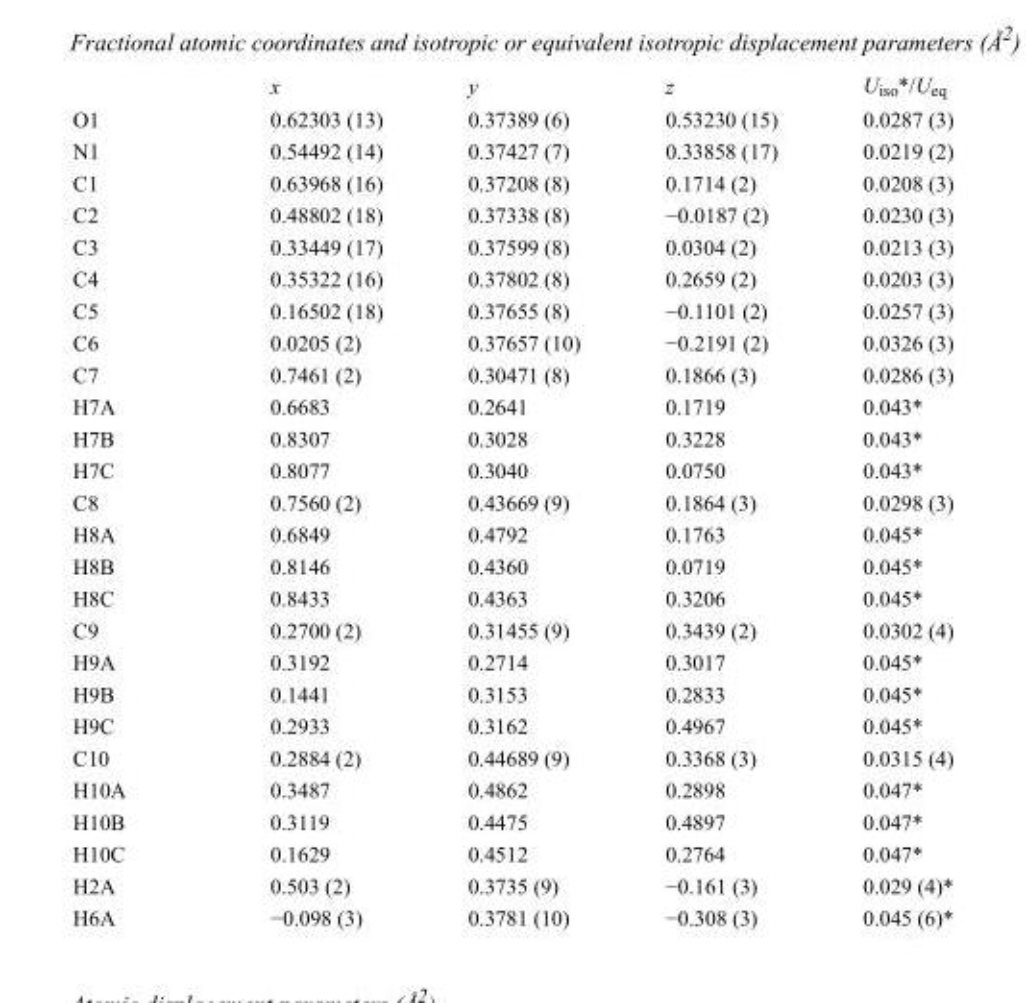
<table><thead><tr><td></td><td>x</td><td>y</td><td>z</td><td>U<sub>iso</sub>*/U<sub>eq</sub></td></tr></thead><tbody><tr><td>O1</td><td>0.62303 (13)</td><td>0.37389 (6)</td><td>0.53230 (15)</td><td>0.0287 (3)</td></tr><tr><td>N1</td><td>0.54492 (14)</td><td>0.37427 (7)</td><td>0.33858 (17)</td><td>0.0219 (2)</td></tr><tr><td>C1</td><td>0.63968 (16)</td><td>0.37208 (8)</td><td>0.1714 (2)</td><td>0.0208 (3)</td></tr><tr><td>C2</td><td>0.48802 (18)</td><td>0.37338 (8)</td><td>−0.0187 (2)</td><td>0.0230 (3)</td></tr><tr><td>C3</td><td>0.33449 (17)</td><td>0.37599 (8)</td><td>0.0304 (2)</td><td>0.0213 (3)</td></tr><tr><td>C4</td><td>0.35322 (16)</td><td>0.37802 (8)</td><td>0.2659 (2)</td><td>0.0203 (3)</td></tr><tr><td>C5</td><td>0.16502 (18)</td><td>0.37655 (8)</td><td>−0.1101 (2)</td><td>0.0257 (3)</td></tr><tr><td>C6</td><td>0.0205 (2)</td><td>0.37657 (10)</td><td>−0.2191 (2)</td><td>0.0326 (3)</td></tr><tr><td>C7</td><td>0.7461 (2)</td><td>0.30471 (8)</td><td>0.1866 (3)</td><td>0.0286 (3)</td></tr><tr><td>H7A</td><td>0.6683</td><td>0.2641</td><td>0.1719</td><td>0.043*</td></tr><tr><td>H7B</td><td>0.8307</td><td>0.3028</td><td>0.3228</td><td>0.043*</td></tr><tr><td>H7C</td><td>0.8077</td><td>0.3040</td><td>0.0750</td><td>0.043*</td></tr><tr><td>C8</td><td>0.7560 (2)</td><td>0.43669 (9)</td><td>0.1864 (3)</td><td>0.0298 (3)</td></tr><tr><td>H8A</td><td>0.6849</td><td>0.4792</td><td>0.1763</td><td>0.045*</td></tr><tr><td>H8B</td><td>0.8146</td><td>0.4360</td><td>0.0719</td><td>0.045*</td></tr><tr><td>H8C</td><td>0.8433</td><td>0.4363</td><td>0.3206</td><td>0.045*</td></tr><tr><td>C9</td><td>0.2700 (2)</td><td>0.31455 (9)</td><td>0.3439 (2)</td><td>0.0302 (4)</td></tr><tr><td>H9A</td><td>0.3192</td><td>0.2714</td><td>0.3017</td><td>0.045*</td></tr><tr><td>H9B</td><td>0.1441</td><td>0.3153</td><td>0.2833</td><td>0.045*</td></tr><tr><td>H9C</td><td>0.2933</td><td>0.3162</td><td>0.4967</td><td>0.045*</td></tr><tr><td>C10</td><td>0.2884 (2)</td><td>0.44689 (9)</td><td>0.3368 (3)</td><td>0.0315 (4)</td></tr><tr><td>H10A</td><td>0.3487</td><td>0.4862</td><td>0.2898</td><td>0.047*</td></tr><tr><td>H10B</td><td>0.3119</td><td>0.4475</td><td>0.4897</td><td>0.047*</td></tr><tr><td>H10C</td><td>0.1629</td><td>0.4512</td><td>0.2764</td><td>0.047*</td></tr><tr><td>H2A</td><td>0.503 (2)</td><td>0.3735 (9)</td><td>−0.161 (3)</td><td>0.029 (4)*</td></tr><tr><td>H6A</td><td>−0.098 (3)</td><td>0.3781 (10)</td><td>−0.308 (3)</td><td>0.045 (6)*</td></tr></tbody></table>